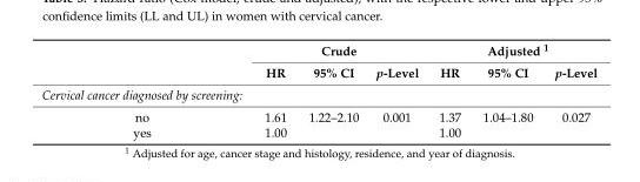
<table><thead><tr><td rowspan="2"></td><td colspan="3">Crude</td><td colspan="3">Adjusted <sup>1</sup></td></tr><tr><td>HR</td><td>95% CI</td><td>p-Level</td><td>HR</td><td>95% CI</td><td>p-Level</td></tr></thead><tbody><tr><td colspan="7">Cervical cancer diagnosed by screening:</td></tr><tr><td>no</td><td>1.61</td><td>1.22–2.10</td><td>0.001</td><td>1.37</td><td>1.04–1.80</td><td>0.027</td></tr><tr><td>yes</td><td>1.00</td><td></td><td></td><td>1.00</td><td></td><td></td></tr></tbody></table>